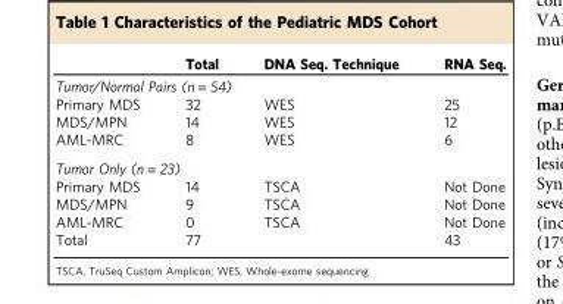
<table><thead><tr><td></td><td>Total</td><td>DNA Seq. Technique</td><td>RNA Seq.</td></tr></thead><tbody><tr><td colspan="4">Tumor/Normal Pairs (n = 54)</td></tr><tr><td>Primary MDS</td><td>32</td><td>WES</td><td>25</td></tr><tr><td>MDS/MPN</td><td>14</td><td>WES</td><td>12</td></tr><tr><td>AML-MRC</td><td>8</td><td>WES</td><td>6</td></tr><tr><td colspan="4">Tumor Only (n = 23)</td></tr><tr><td>Primary MDS</td><td>14</td><td>TSCA</td><td>Not Done</td></tr><tr><td>MDS/MPN</td><td>9</td><td>TSCA</td><td>Not Done</td></tr><tr><td>AML-MRC</td><td>0</td><td>TSCA</td><td>Not Done</td></tr><tr><td>Total</td><td>77</td><td></td><td>43</td></tr></tbody></table>